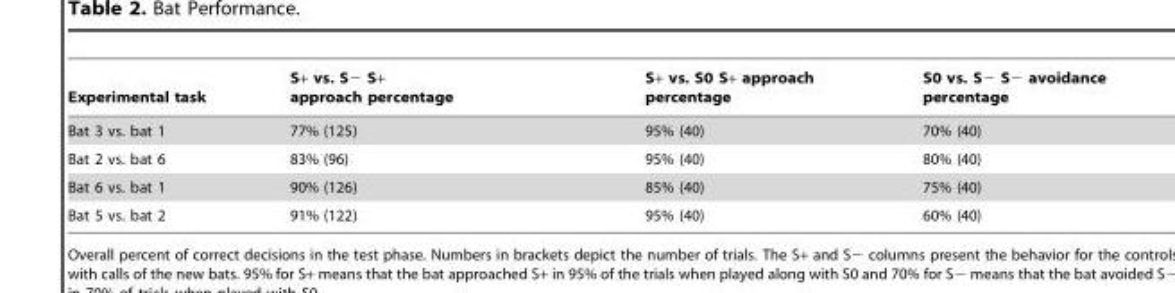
<table><thead><tr><td>Experimental task</td><td>S+ vs. S− S+ approach percentage</td><td>S+ vs. S0 S+ approach percentage</td><td>S0 vs. S− S− avoidance percentage</td></tr></thead><tbody><tr><td>Bat 3 vs. bat 1</td><td>77% (125)</td><td>95% (40)</td><td>70% (40)</td></tr><tr><td>Bat 2 vs. bat 6</td><td>83% (96)</td><td>95% (40)</td><td>80% (40)</td></tr><tr><td>Bat 6 vs. bat 1</td><td>90% (126)</td><td>85% (40)</td><td>75% (40)</td></tr><tr><td>Bat 5 vs. bat 2</td><td>91% (122)</td><td>95% (40)</td><td>60% (40)</td></tr></tbody></table>